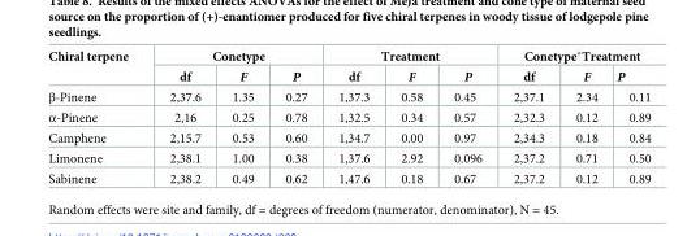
<table><thead><tr><td rowspan="2">Chiral terpene</td><td colspan="3">Conetype</td><td colspan="3">Treatment</td><td colspan="3">Conetype*Treatment</td></tr><tr><td>df</td><td>F</td><td>P</td><td>df</td><td>F</td><td>P</td><td>df</td><td>F</td><td>P</td></tr></thead><tbody><tr><td>β-Pinene</td><td>2,37.6</td><td>1.35</td><td>0.27</td><td>1,37.3</td><td>0.58</td><td>0.45</td><td>2,37.1</td><td>2.34</td><td>0.11</td></tr><tr><td>α-Pinene</td><td>2,16</td><td>0.25</td><td>0.78</td><td>1,32.5</td><td>0.34</td><td>0.57</td><td>2,32.3</td><td>0.12</td><td>0.89</td></tr><tr><td>Camphene</td><td>2,15.7</td><td>0.53</td><td>0.60</td><td>1,34.7</td><td>0.00</td><td>0.97</td><td>2,34.3</td><td>0.18</td><td>0.84</td></tr><tr><td>Limonene</td><td>2,38.1</td><td>1.00</td><td>0.38</td><td>1,37.6</td><td>2.92</td><td>0.096</td><td>2,37.2</td><td>0.71</td><td>0.50</td></tr><tr><td>Sabinene</td><td>2,38.2</td><td>0.49</td><td>0.62</td><td>1,47.6</td><td>0.18</td><td>0.67</td><td>2,37.2</td><td>0.12</td><td>0.89</td></tr></tbody></table>